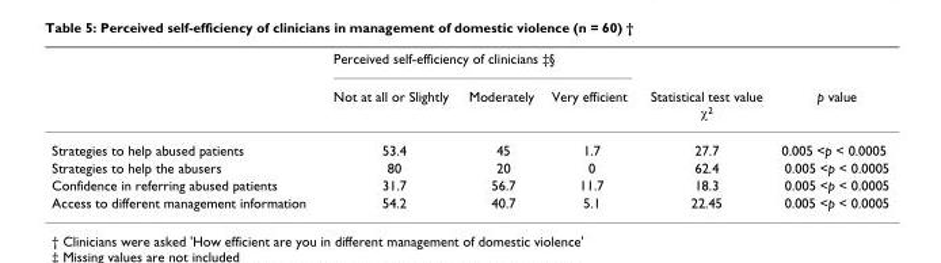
<table><thead><tr><td rowspan="2"></td><td colspan="3">Perceived self-efficiency of clinicians ‡§</td><td rowspan="2">Statistical test value χ<sup>2</sup></td><td rowspan="2">p value</td></tr><tr><td>Not at all or Slightly</td><td>Moderately</td><td>Very efficient</td></tr></thead><tbody><tr><td>Strategies to help abused patients</td><td>53.4</td><td>45</td><td>1.7</td><td>27.7</td><td>0.005 &lt;p &lt; 0.0005</td></tr><tr><td>Strategies to help the abusers</td><td>80</td><td>20</td><td>0</td><td>62.4</td><td>0.005 &lt;p &lt; 0.0005</td></tr><tr><td>Confidence in referring abused patients</td><td>31.7</td><td>56.7</td><td>11.7</td><td>18.3</td><td>0.005 &lt;p &lt; 0.0005</td></tr><tr><td>Access to different management information</td><td>54.2</td><td>40.7</td><td>5.1</td><td>22.45</td><td>0.005 &lt;p &lt; 0.0005</td></tr></tbody></table>